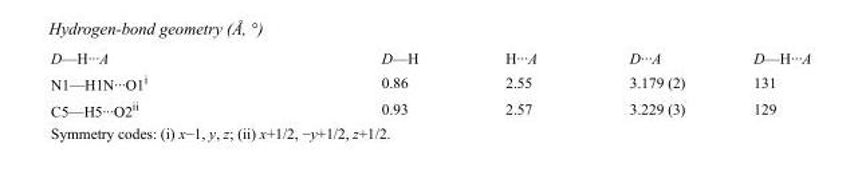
<table><tbody><tr><td>D—H···A</td><td>D—H</td><td>H···A</td><td>D···A</td><td>D—H···A</td></tr><tr><td>N1—H1N···O1<sup>i</sup></td><td>0.86</td><td>2.55</td><td>3.179 (2)</td><td>131</td></tr><tr><td>C5—H5···O2<sup>ii</sup></td><td>0.93</td><td>2.57</td><td>3.229 (3)</td><td>129</td></tr></tbody></table>